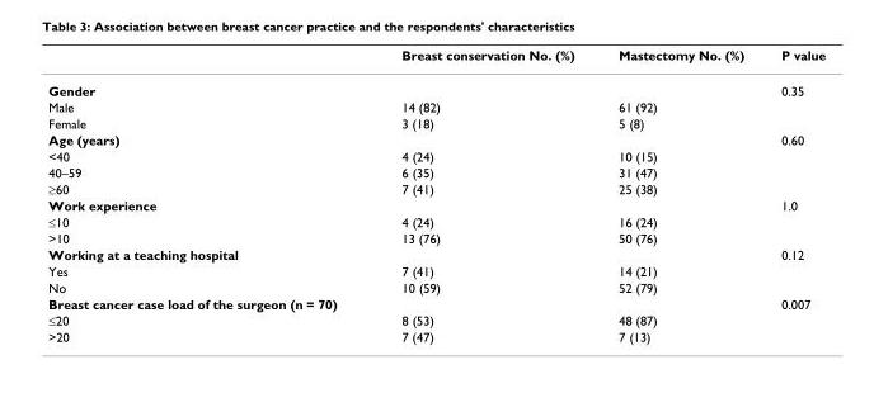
<table><thead><tr><td></td><td>Breast conservation No. (%)</td><td>Mastectomy No. (%)</td><td>P value</td></tr></thead><tbody><tr><td>Gender</td><td></td><td></td><td>0.35</td></tr><tr><td>Male</td><td>14 (82)</td><td>61 (92)</td><td></td></tr><tr><td>Female</td><td>3 (18)</td><td>5 (8)</td><td></td></tr><tr><td>Age (years)</td><td></td><td></td><td>0.60</td></tr><tr><td>&lt;40</td><td>4 (24)</td><td>10 (15)</td><td></td></tr><tr><td>40–59</td><td>6 (35)</td><td>31 (47)</td><td></td></tr><tr><td>≥60</td><td>7 (41)</td><td>25 (38)</td><td></td></tr><tr><td>Work experience</td><td></td><td></td><td>1.0</td></tr><tr><td>≤10</td><td>4 (24)</td><td>16 (24)</td><td></td></tr><tr><td>&gt;10</td><td>13 (76)</td><td>50 (76)</td><td></td></tr><tr><td>Working at a teaching hospital</td><td></td><td></td><td>0.12</td></tr><tr><td>Yes</td><td>7 (41)</td><td>14 (21)</td><td></td></tr><tr><td>No</td><td>10 (59)</td><td>52 (79)</td><td></td></tr><tr><td>Breast cancer case load of the surgeon (n = 70)</td><td></td><td></td><td>0.007</td></tr><tr><td>≤20</td><td>8 (53)</td><td>48 (87)</td><td></td></tr><tr><td>&gt;20</td><td>7 (47)</td><td>7 (13)</td><td></td></tr></tbody></table>